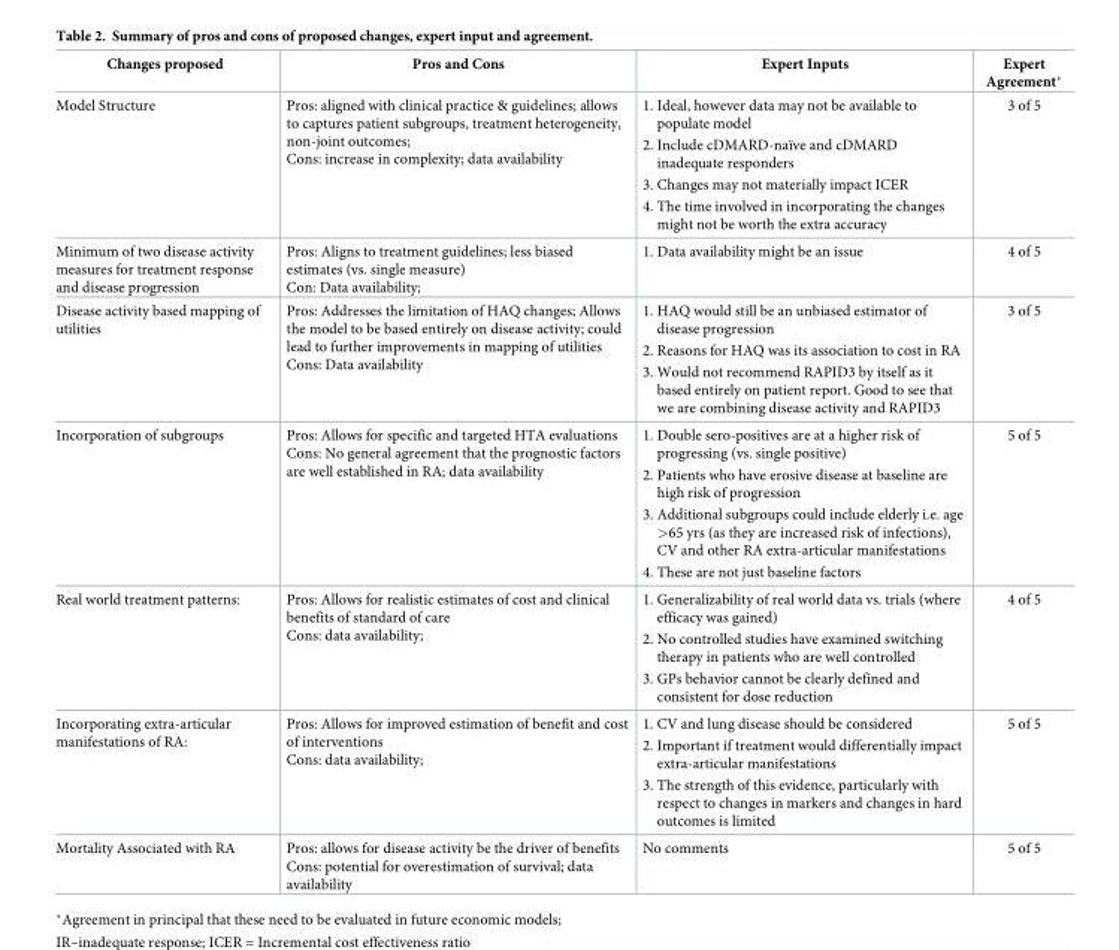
<table><thead><tr><td>Changes proposed</td><td>Pros and Cons</td><td>Expert Inputs</td><td>Expert Agreement*</td></tr></thead><tbody><tr><td>Model Structure</td><td>Pros: aligned with clinical practice &amp; guidelines; allows to captures patient subgroups, treatment heterogeneity, non-joint outcomes; Cons: increase in complexity; data availability</td><td>1. Ideal, however data may not be available to populate model 2. Include cDMARD-naïve and cDMARD inadequate responders 3. Changes may not materially impact ICER 4. The time involved in incorporating the changes might not be worth the extra accuracy</td><td>3 of 5</td></tr><tr><td>Minimum of two disease activity measures for treatment response and disease progression</td><td>Pros: Aligns to treatment guidelines; less biased estimates (vs. single measure) Con: Data availability;</td><td>1. Data availability might be an issue</td><td>4 of 5</td></tr><tr><td>Disease activity based mapping of utilities</td><td>Pros: Addresses the limitation of HAQ changes; Allows the model to be based entirely on disease activity; could lead to further improvements in mapping of utilities Cons: Data availability</td><td>1. HAQ would still be an unbiased estimator of disease progression 2. Reasons for HAQ was its association to cost in RA 3. Would not recommend RAPID3 by itself as it based entirely on patient report. Good to see that we are combining disease activity and RAPID3</td><td>3 of 5</td></tr><tr><td>Incorporation of subgroups</td><td>Pros: Allows for specific and targeted HTA evaluations Cons: No general agreement that the prognostic factors are well established in RA; data availability</td><td>1. Double sero-positives are at a higher risk of progressing (vs. single positive) 2. Patients who have erosive disease at baseline are high risk of progression 3. Additional subgroups could include elderly i.e. age &gt;65 yrs (as they are increased risk of infections), CV and other RA extra-articular manifestations 4. These are not just baseline factors</td><td>5 of 5</td></tr><tr><td>Real world treatment patterns:</td><td>Pros: Allows for realistic estimates of cost and clinical benefits of standard of care Cons: data availability;</td><td>1. Generalizability of real world data vs. trials (where efficacy was gained) 2. No controlled studies have examined switching therapy in patients who are well controlled 3. GPs behavior cannot be clearly defined and consistent for dose reduction</td><td>4 of 5</td></tr><tr><td>Incorporating extra-articular manifestations of RA:</td><td>Pros: Allows for improved estimation of benefit and cost of interventions Cons: data availability;</td><td>1. CV and lung disease should be considered 2. Important if treatment would differentially impact extra-articular manifestations 3. The strength of this evidence, particularly with respect to changes in markers and changes in hard outcomes is limited</td><td>5 of 5</td></tr><tr><td>Mortality Associated with RA</td><td>Pros: allows for disease activity be the driver of benefits Cons: potential for overestimation of survival; data availability</td><td>No comments</td><td>5 of 5</td></tr></tbody></table>